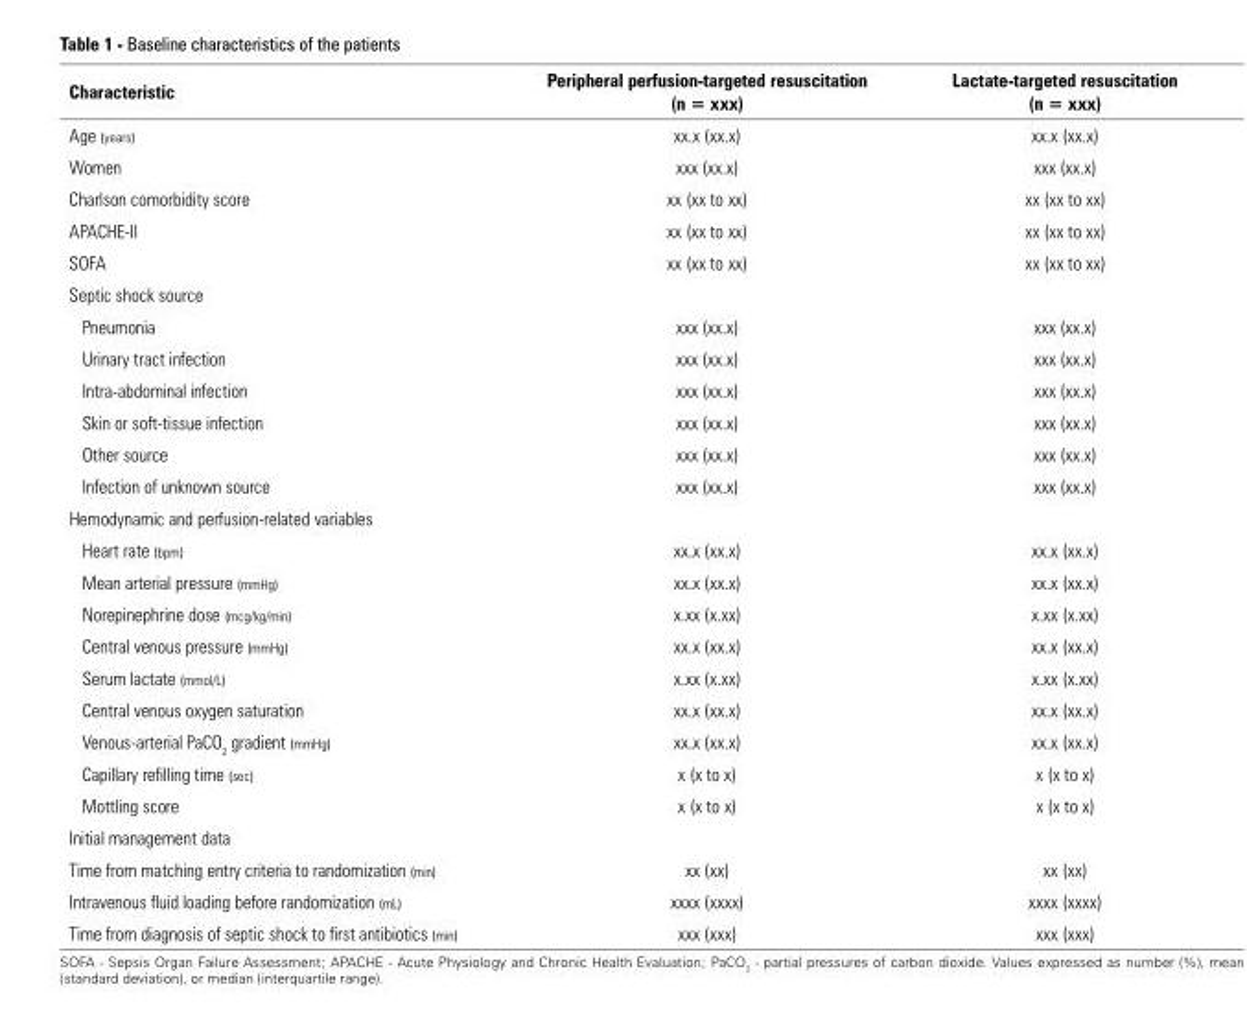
<table><thead><tr><td>Characteristic</td><td>Peripheral perfusion-targeted resuscitation (n = xxx)</td><td>Lactate-targeted resuscitation (n = xxx)</td></tr></thead><tbody><tr><td>Age (years)</td><td>xx.x (xx.x)</td><td>xx.x (xx.x)</td></tr><tr><td>Women</td><td>xxx (xx.x)</td><td>xxx (xx.x)</td></tr><tr><td>Charlson comorbidity score</td><td>xx (xx to xx)</td><td>xx (xx to xx)</td></tr><tr><td>APACHE-II</td><td>xx (xx to xx)</td><td>xx (xx to xx)</td></tr><tr><td>SOFA</td><td>xx (xx to xx)</td><td>xx (xx to xx)</td></tr><tr><td colspan="3">Septic shock source</td></tr><tr><td>Pneumonia</td><td>xxx (xx.x)</td><td>xxx (xx.x)</td></tr><tr><td>Urinary tract infection</td><td>xxx (xx.x)</td><td>xxx (xx.x)</td></tr><tr><td>Intra-abdominal infection</td><td>xxx (xx.x)</td><td>xxx (xx.x)</td></tr><tr><td>Skin or soft-tissue infection</td><td>xxx (xx.x)</td><td>xxx (xx.x)</td></tr><tr><td>Other source</td><td>xxx (xx.x)</td><td>xxx (xx.x)</td></tr><tr><td>Infection of unknown source</td><td>xxx (xx.x)</td><td>xxx (xx.x)</td></tr><tr><td colspan="3">Hemodynamic and perfusion-related variables</td></tr><tr><td>Heart rate (bpm)</td><td>xx.x (xx.x)</td><td>xx.x (xx.x)</td></tr><tr><td>Mean arterial pressure (mmHg)</td><td>xx.x (xx.x)</td><td>xx.x (xx.x)</td></tr><tr><td>Norepinephrine dose (mcg/kg/min)</td><td>x.xx (x.xx)</td><td>x.xx (x.xx)</td></tr><tr><td>Central venous pressure (mmHg)</td><td>xx.x (xx.x)</td><td>xx.x (xx.x)</td></tr><tr><td>Serum lactate (mmol/L)</td><td>x.xx (x.xx)</td><td>x.xx (x.xx)</td></tr><tr><td>Central venous oxygen saturation</td><td>xx.x (xx.x)</td><td>xx.x (xx.x)</td></tr><tr><td>Venous-arterial PaCO<sub>2</sub> gradient (mmHg)</td><td>xx.x (xx.x)</td><td>xx.x (xx.x)</td></tr><tr><td>Capillary refilling time (sec)</td><td>x (x to x)</td><td>x (x to x)</td></tr><tr><td>Mottling score</td><td>x (x to x)</td><td>x (x to x)</td></tr><tr><td colspan="3">Initial management data</td></tr><tr><td>Time from matching entry criteria to randomization (min)</td><td>xx (xx)</td><td>xx (xx)</td></tr><tr><td>Intravenous fluid loading before randomization (mL)</td><td>xxxx (xxxx)</td><td>xxxx (xxxx)</td></tr><tr><td>Time from diagnosis of septic shock to first antibiotics (min)</td><td>xxx (xxx)</td><td>xxx (xxx)</td></tr></tbody></table>